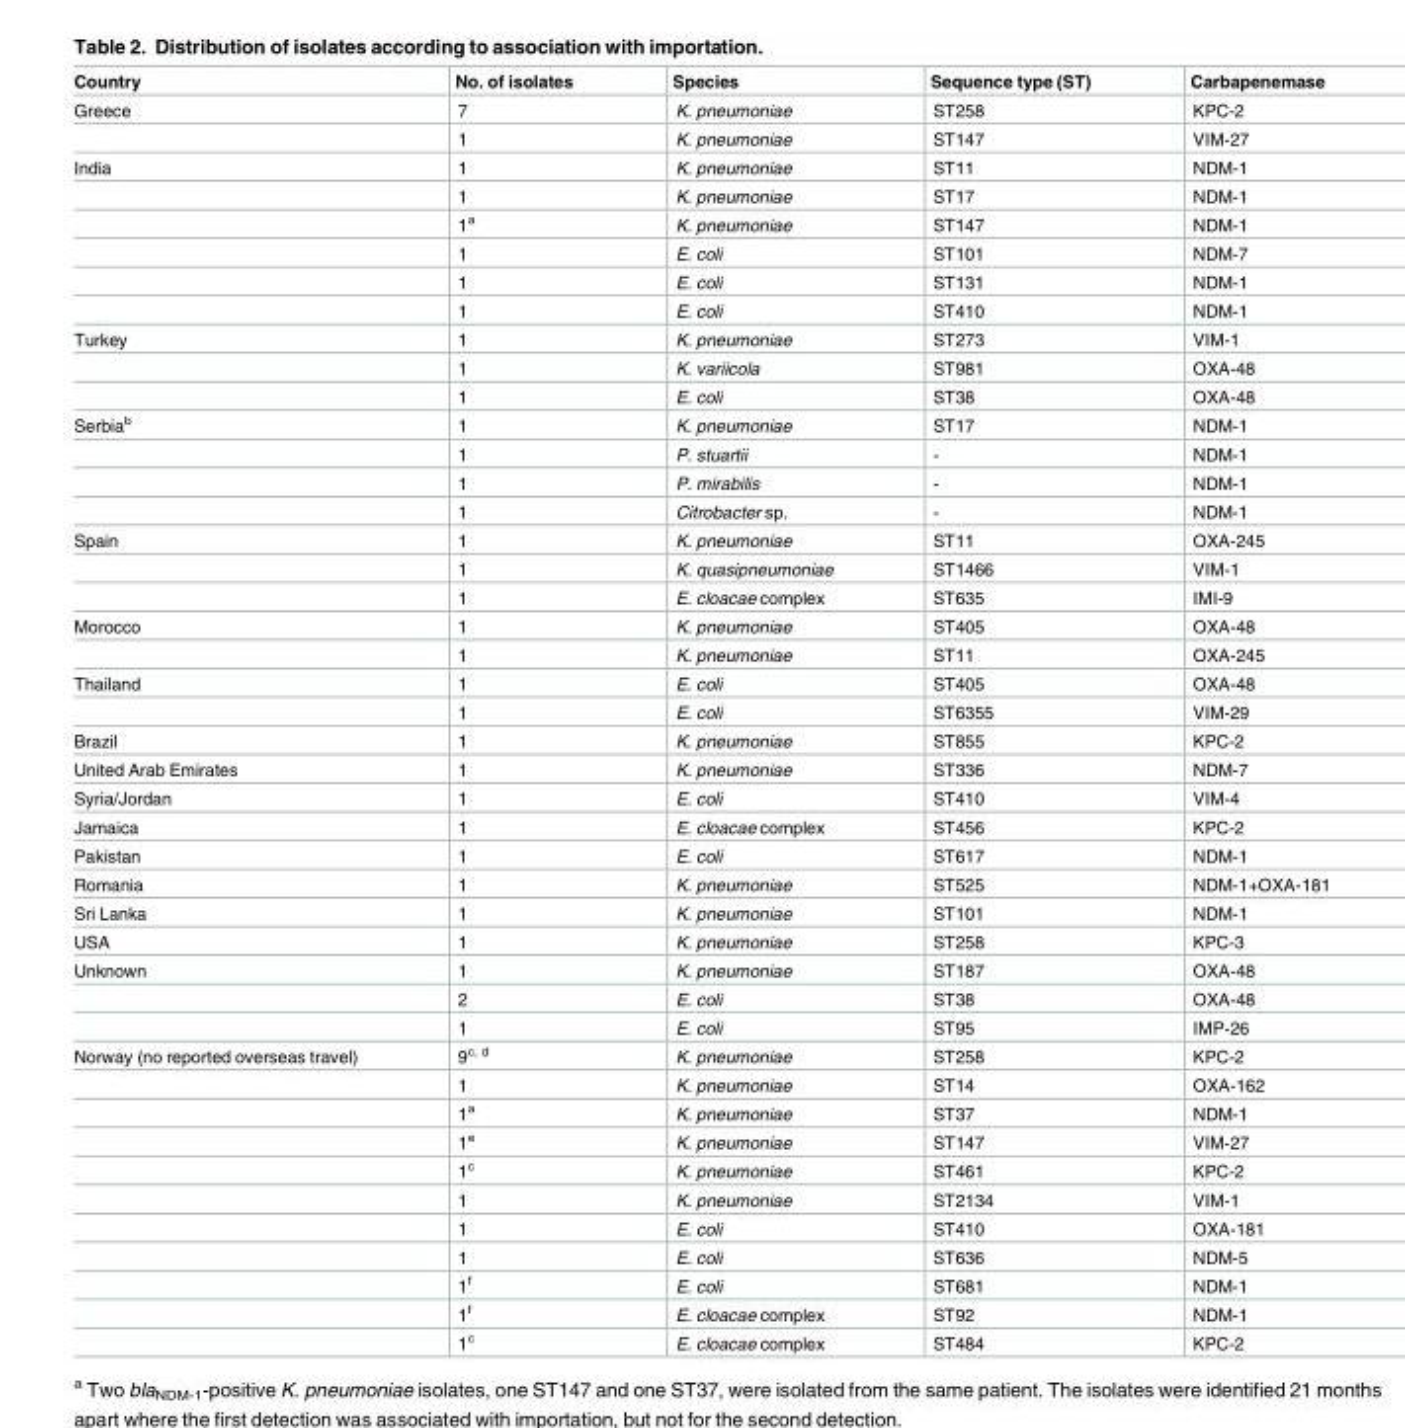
<table><thead><tr><td>Country</td><td>No. of isolates</td><td>Species</td><td>Sequence type (ST)</td><td>Carbapenemase</td></tr></thead><tbody><tr><td rowspan="2">Greece</td><td>7</td><td>K. pneumoniae</td><td>ST258</td><td>KPC-2</td></tr><tr><td>1</td><td>K. pneumoniae</td><td>ST147</td><td>VIM-27</td></tr><tr><td rowspan="6">India</td><td>1</td><td>K. pneumoniae</td><td>ST11</td><td>NDM-1</td></tr><tr><td>1</td><td>K. pneumoniae</td><td>ST17</td><td>NDM-1</td></tr><tr><td>1<sup>a</sup></td><td>K. pneumoniae</td><td>ST147</td><td>NDM-1</td></tr><tr><td>1</td><td>E. coli</td><td>ST101</td><td>NDM-7</td></tr><tr><td>1</td><td>E. coli</td><td>ST131</td><td>NDM-1</td></tr><tr><td>1</td><td>E. coli</td><td>ST410</td><td>NDM-1</td></tr><tr><td rowspan="3">Turkey</td><td>1</td><td>K. pneumoniae</td><td>ST273</td><td>VIM-1</td></tr><tr><td>1</td><td>K. variicola</td><td>ST981</td><td>OXA-48</td></tr><tr><td>1</td><td>E. coli</td><td>ST38</td><td>OXA-48</td></tr><tr><td rowspan="4">Serbia<sup>b</sup></td><td>1</td><td>K. pneumoniae</td><td>ST17</td><td>NDM-1</td></tr><tr><td>1</td><td>P. stuartii</td><td>-</td><td>NDM-1</td></tr><tr><td>1</td><td>P. mirabilis</td><td>-</td><td>NDM-1</td></tr><tr><td>1</td><td>Citrobacter sp.</td><td>-</td><td>NDM-1</td></tr><tr><td rowspan="3">Spain</td><td>1</td><td>K. pneumoniae</td><td>ST11</td><td>OXA-245</td></tr><tr><td>1</td><td>K. quasipneumoniae</td><td>ST1466</td><td>VIM-1</td></tr><tr><td>1</td><td>E. cloacae complex</td><td>ST635</td><td>IMI-9</td></tr><tr><td rowspan="2">Morocco</td><td>1</td><td>K. pneumoniae</td><td>ST405</td><td>OXA-48</td></tr><tr><td>1</td><td>K. pneumoniae</td><td>ST11</td><td>OXA-245</td></tr><tr><td rowspan="2">Thailand</td><td>1</td><td>E. coli</td><td>ST405</td><td>OXA-48</td></tr><tr><td>1</td><td>E. coli</td><td>ST6355</td><td>VIM-29</td></tr><tr><td>Brazil</td><td>1</td><td>K. pneumoniae</td><td>ST855</td><td>KPC-2</td></tr><tr><td>United Arab Emirates</td><td>1</td><td>K. pneumoniae</td><td>ST336</td><td>NDM-7</td></tr><tr><td>Syria/Jordan</td><td>1</td><td>E. coli</td><td>ST410</td><td>VIM-4</td></tr><tr><td>Jamaica</td><td>1</td><td>E. cloacae complex</td><td>ST456</td><td>KPC-2</td></tr><tr><td>Pakistan</td><td>1</td><td>E. coli</td><td>ST617</td><td>NDM-1</td></tr><tr><td>Romania</td><td>1</td><td>K. pneumoniae</td><td>ST525</td><td>NDM-1+OXA-181</td></tr><tr><td>Sri Lanka</td><td>1</td><td>K. pneumoniae</td><td>ST101</td><td>NDM-1</td></tr><tr><td>USA</td><td>1</td><td>K. pneumoniae</td><td>ST258</td><td>KPC-3</td></tr><tr><td rowspan="3">Unknown</td><td>1</td><td>K. pneumoniae</td><td>ST187</td><td>OXA-48</td></tr><tr><td>2</td><td>E. coli</td><td>ST38</td><td>OXA-48</td></tr><tr><td>1</td><td>E. coli</td><td>ST95</td><td>IMP-26</td></tr><tr><td rowspan="11">Norway (no reported overseas travel)</td><td>9<sup>c, d</sup></td><td>K. pneumoniae</td><td>ST258</td><td>KPC-2</td></tr><tr><td>1</td><td>K. pneumoniae</td><td>ST14</td><td>OXA-162</td></tr><tr><td>1<sup>a</sup></td><td>K. pneumoniae</td><td>ST37</td><td>NDM-1</td></tr><tr><td>1<sup>e</sup></td><td>K. pneumoniae</td><td>ST147</td><td>VIM-27</td></tr><tr><td>1<sup>c</sup></td><td>K. pneumoniae</td><td>ST461</td><td>KPC-2</td></tr><tr><td>1</td><td>K. pneumoniae</td><td>ST2134</td><td>VIM-1</td></tr><tr><td>1</td><td>E. coli</td><td>ST410</td><td>OXA-181</td></tr><tr><td>1</td><td>E. coli</td><td>ST636</td><td>NDM-5</td></tr><tr><td>1<sup>f</sup></td><td>E. coli</td><td>ST681</td><td>NDM-1</td></tr><tr><td>1<sup>f</sup></td><td>E. cloacae complex</td><td>ST92</td><td>NDM-1</td></tr><tr><td>1<sup>c</sup></td><td>E. cloacae complex</td><td>ST484</td><td>KPC-2</td></tr></tbody></table>